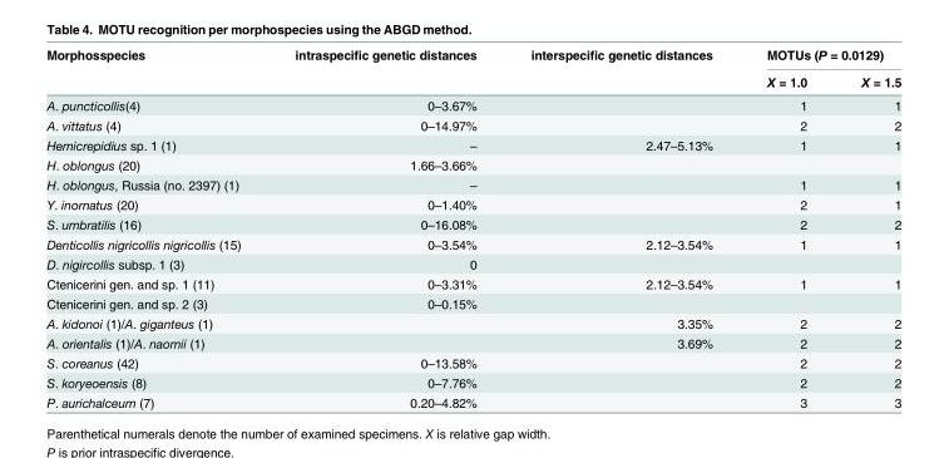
<table><thead><tr><td rowspan="2">Morphosspecies</td><td rowspan="2">intraspecific genetic distances</td><td rowspan="2">interspecific genetic distances</td><td colspan="2">MOTUs (P = 0.0129)</td></tr><tr><td>X = 1.0</td><td>X = 1.5</td></tr></thead><tbody><tr><td>A. puncticollis(4)</td><td>0–3.67%</td><td></td><td>1</td><td>1</td></tr><tr><td>A. vittatus (4)</td><td>0–14.97%</td><td></td><td>2</td><td>2</td></tr><tr><td>Hemicrepidius sp. 1 (1)</td><td>–</td><td>2.47–5.13%</td><td>1</td><td>1</td></tr><tr><td>H. oblongus (20)</td><td>1.66–3.66%</td><td></td><td></td><td></td></tr><tr><td>H. oblongus, Russia (no. 2397) (1)</td><td>–</td><td></td><td>1</td><td>1</td></tr><tr><td>Y. inornatus (20)</td><td>0–1.40%</td><td></td><td>2</td><td>1</td></tr><tr><td>S. umbratilis (16)</td><td>0–16.08%</td><td></td><td>2</td><td>2</td></tr><tr><td>Denticollis nigricollis nigricollis (15)</td><td>0–3.54%</td><td>2.12–3.54%</td><td>1</td><td>1</td></tr><tr><td>D. nigircollis subsp. 1 (3)</td><td>0</td><td></td><td></td><td></td></tr><tr><td>Ctenicerini gen. and sp. 1 (11)</td><td>0–3.31%</td><td>2.12–3.54%</td><td>1</td><td>1</td></tr><tr><td>Ctenicerini gen. and sp. 2 (3)</td><td>0–0.15%</td><td></td><td></td><td></td></tr><tr><td>A. kidonoi (1)/A. giganteus (1)</td><td></td><td>3.35%</td><td>2</td><td>2</td></tr><tr><td>A. orientalis (1)/A. naomii (1)</td><td></td><td>3.69%</td><td>2</td><td>2</td></tr><tr><td>S. coreanus (42)</td><td>0–13.58%</td><td></td><td>2</td><td>2</td></tr><tr><td>S. koryeoensis (8)</td><td>0–7.76%</td><td></td><td>2</td><td>2</td></tr><tr><td>P. aurichalceum (7)</td><td>0.20–4.82%</td><td></td><td>3</td><td>3</td></tr></tbody></table>